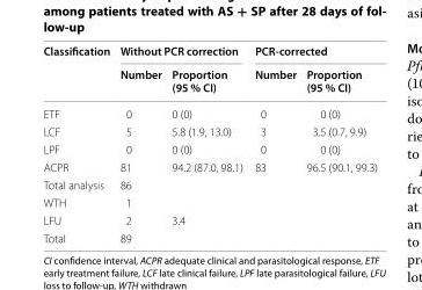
<table><thead><tr><td rowspan="2">Classification</td><td colspan="2">Without PCR correction</td><td colspan="2">PCR‑corrected</td></tr><tr><td>Number</td><td>Proportion (95 % CI)</td><td>Number</td><td>Proportion (95 % CI)</td></tr></thead><tbody><tr><td>ETF</td><td>0</td><td>0 (0)</td><td>0</td><td>0 (0)</td></tr><tr><td>LCF</td><td>5</td><td>5.8 (1.9, 13.0)</td><td>3</td><td>3.5 (0.7, 9.9)</td></tr><tr><td>LPF</td><td>0</td><td>0 (0)</td><td>0</td><td>0 (0)</td></tr><tr><td>ACPR</td><td>81</td><td>94.2 (87.0, 98.1)</td><td>83</td><td>96.5 (90.1, 99.3)</td></tr><tr><td>Total analysis</td><td>86</td><td></td><td></td><td></td></tr><tr><td>WTH</td><td>1</td><td></td><td></td><td></td></tr><tr><td>LFU</td><td>2</td><td>3.4</td><td></td><td></td></tr><tr><td>Total</td><td>89</td><td></td><td></td><td></td></tr></tbody></table>